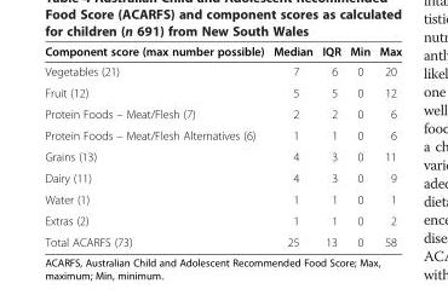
<table><thead><tr><td>Component score (max number possible)</td><td>Median</td><td>IQR</td><td>Min</td><td>Max</td></tr></thead><tbody><tr><td>Vegetables (21)</td><td>7</td><td>6</td><td>0</td><td>20</td></tr><tr><td>Fruit (12)</td><td>5</td><td>5</td><td>0</td><td>12</td></tr><tr><td>Protein Foods – Meat/Flesh (7)</td><td>2</td><td>2</td><td>0</td><td>6</td></tr><tr><td>Protein Foods – Meat/Flesh Alternatives (6)</td><td>1</td><td>1</td><td>0</td><td>6</td></tr><tr><td>Grains (13)</td><td>4</td><td>3</td><td>0</td><td>11</td></tr><tr><td>Dairy (11)</td><td>4</td><td>3</td><td>0</td><td>9</td></tr><tr><td>Water (1)</td><td>1</td><td>1</td><td>0</td><td>1</td></tr><tr><td>Extras (2)</td><td>1</td><td>1</td><td>0</td><td>2</td></tr><tr><td>Total ACARFS (73)</td><td>25</td><td>13</td><td>0</td><td>58</td></tr></tbody></table>